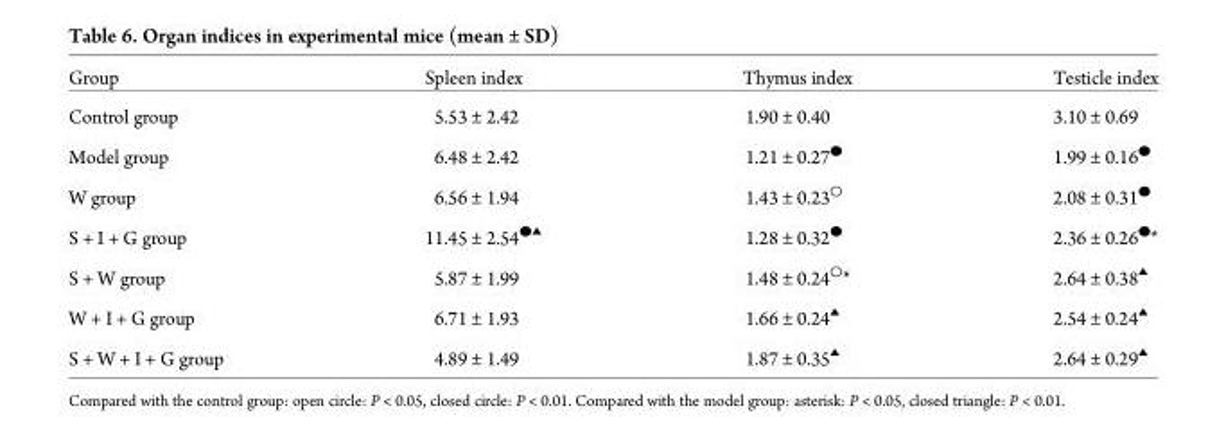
<table><thead><tr><td>Group</td><td>Spleen index</td><td>Thymus index</td><td>Testicle index</td></tr></thead><tbody><tr><td>Control group</td><td>5.53 ± 2.42</td><td>1.90 ± 0.40</td><td>3.10 ± 0.69</td></tr><tr><td>Model group</td><td>6.48 ± 2.42</td><td>1.21 ± 0.27<sup>●</sup></td><td>1.99 ± 0.16<sup>●</sup></td></tr><tr><td>W group</td><td>6.56 ± 1.94</td><td>1.43 ± 0.23<sup>○</sup></td><td>2.08 ± 0.31<sup>●</sup></td></tr><tr><td>S + I + G group</td><td>11.45 ± 2.54●▴</td><td>1.28 ± 0.32<sup>●</sup></td><td>2.36 ± 0.26<sup>●</sup>*</td></tr><tr><td>S + W group</td><td>5.87 ± 1.99</td><td>1.48 ± 0.24<sup>○</sup>*</td><td>2.64 ± 0.38▴</td></tr><tr><td>W + I + G group</td><td>6.71 ± 1.93</td><td>1.66 ± 0.24▴</td><td>2.54 ± 0.24▴</td></tr><tr><td>S + W + I + G group</td><td>4.89 ± 1.49</td><td>1.87 ± 0.35▴</td><td>2.64 ± 0.29▴</td></tr></tbody></table>